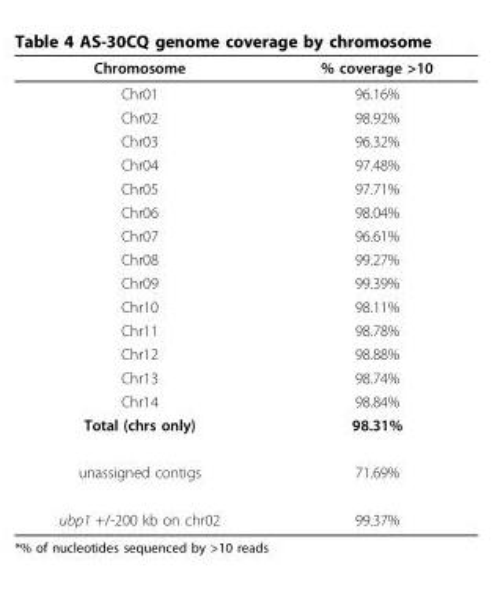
<table><thead><tr><td>Chromosome</td><td>% coverage &gt;10</td></tr></thead><tbody><tr><td>Chr01</td><td>96.16%</td></tr><tr><td>Chr02</td><td>98.92%</td></tr><tr><td>Chr03</td><td>96.32%</td></tr><tr><td>Chr04</td><td>97.48%</td></tr><tr><td>Chr05</td><td>97.71%</td></tr><tr><td>Chr06</td><td>98.04%</td></tr><tr><td>Chr07</td><td>96.61%</td></tr><tr><td>Chr08</td><td>99.27%</td></tr><tr><td>Chr09</td><td>99.39%</td></tr><tr><td>Chr10</td><td>98.11%</td></tr><tr><td>Chr11</td><td>98.78%</td></tr><tr><td>Chr12</td><td>98.88%</td></tr><tr><td>Chr13</td><td>98.74%</td></tr><tr><td>Chr14</td><td>98.84%</td></tr><tr><td>Total (chrs only)</td><td>98.31%</td></tr><tr><td>unassigned contigs</td><td>71.69%</td></tr><tr><td>ubp1 +/-200 kb on chr02</td><td>99.37%</td></tr></tbody></table>